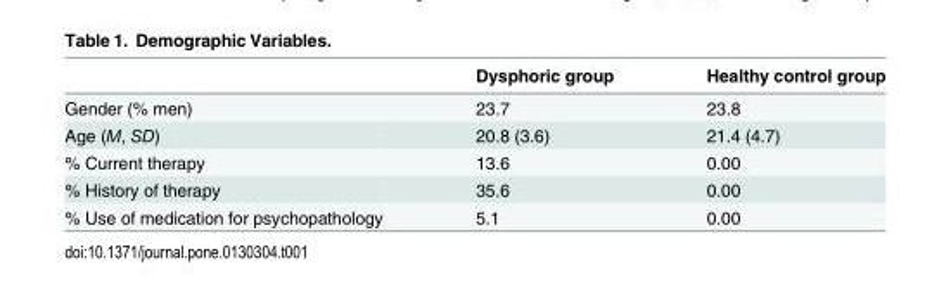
<table><thead><tr><td></td><td>Dysphoric group</td><td>Healthy control group</td></tr></thead><tbody><tr><td>Gender (% men)</td><td>23.7</td><td>23.8</td></tr><tr><td>Age (M, SD)</td><td>20.8 (3.6)</td><td>21.4 (4.7)</td></tr><tr><td>% Current therapy</td><td>13.6</td><td>0.00</td></tr><tr><td>% History of therapy</td><td>35.6</td><td>0.00</td></tr><tr><td>% Use of medication for psychopathology</td><td>5.1</td><td>0.00</td></tr></tbody></table>